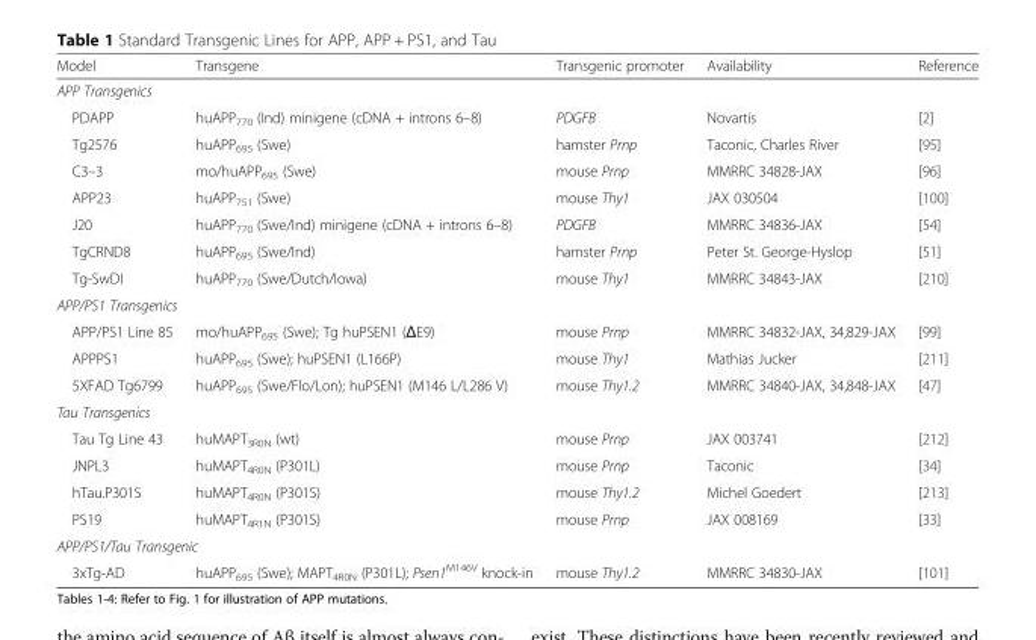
<table><thead><tr><td>Model</td><td>Transgene</td><td>Transgenic promoter</td><td>Availability</td><td>Reference</td></tr></thead><tbody><tr><td colspan="5">APP Transgenics</td></tr><tr><td>PDAPP</td><td>huAPP<sub>770</sub> (Ind) minigene (cDNA + introns 6–8)</td><td>PDGFB</td><td>Novartis</td><td>[2]</td></tr><tr><td>Tg2576</td><td>huAPP<sub>695</sub> (Swe)</td><td>hamster Prnp</td><td>Taconic, Charles River</td><td>[95]</td></tr><tr><td>C3–3</td><td>mo/huAPP<sub>695</sub> (Swe)</td><td>mouse Prnp</td><td>MMRRC 34828-JAX</td><td>[96]</td></tr><tr><td>APP23</td><td>huAPP<sub>751</sub> (Swe)</td><td>mouse Thy1</td><td>JAX 030504</td><td>[100]</td></tr><tr><td>J20</td><td>huAPP<sub>770</sub> (Swe/Ind) minigene (cDNA + introns 6–8)</td><td>PDGFB</td><td>MMRRC 34836-JAX</td><td>[54]</td></tr><tr><td>TgCRND8</td><td>huAPP<sub>695</sub> (Swe/Ind)</td><td>hamster Prnp</td><td>Peter St. George-Hyslop</td><td>[51]</td></tr><tr><td>Tg-SwDI</td><td>huAPP<sub>770</sub> (Swe/Dutch/Iowa)</td><td>mouse Thy1</td><td>MMRRC 34843-JAX</td><td>[210]</td></tr><tr><td colspan="5">APP/PS1 Transgenics</td></tr><tr><td>APP/PS1 Line 85</td><td>mo/huAPP<sub>695</sub> (Swe); Tg huPSEN1 (ΔE9)</td><td>mouse Prnp</td><td>MMRRC 34832-JAX, 34,829-JAX</td><td>[99]</td></tr><tr><td>APPPS1</td><td>huAPP<sub>695</sub> (Swe); huPSEN1 (L166P)</td><td>mouse Thy1</td><td>Mathias Jucker</td><td>[211]</td></tr><tr><td>5XFAD Tg6799</td><td>huAPP<sub>695</sub> (Swe/Flo/Lon); huPSEN1 (M146 L/L286 V)</td><td>mouse Thy1.2</td><td>MMRRC 34840-JAX, 34,848-JAX</td><td>[47]</td></tr><tr><td colspan="5">Tau Transgenics</td></tr><tr><td>Tau Tg Line 43</td><td>huMAPT<sub>3R0N</sub> (wt)</td><td>mouse Prnp</td><td>JAX 003741</td><td>[212]</td></tr><tr><td>JNPL3</td><td>huMAPT<sub>4R0N</sub> (P301L)</td><td>mouse Prnp</td><td>Taconic</td><td>[34]</td></tr><tr><td>hTau.P301S</td><td>huMAPT<sub>4R0N</sub> (P301S)</td><td>mouse Thy1.2</td><td>Michel Goedert</td><td>[213]</td></tr><tr><td>PS19</td><td>huMAPT<sub>4R1N</sub> (P301S)</td><td>mouse Prnp</td><td>JAX 008169</td><td>[33]</td></tr><tr><td colspan="5">APP/PS1/Tau Transgenic</td></tr><tr><td>3xTg-AD</td><td>huAPP<sub>695</sub> (Swe); MAPT<sub>4R0N</sub> (P301L); Psen1<sup>M146V</sup> knock-in</td><td>mouse Thy1.2</td><td>MMRRC 34830-JAX</td><td>[101]</td></tr></tbody></table>